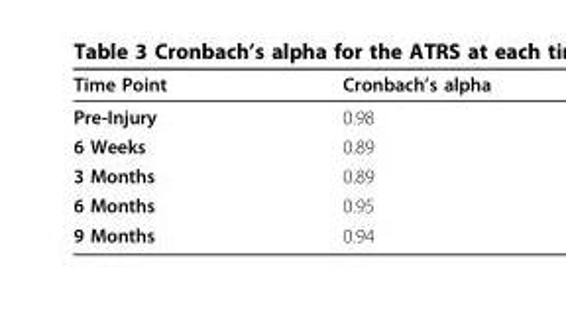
<table><thead><tr><td>Time Point</td><td>Cronbach’s alpha</td></tr></thead><tbody><tr><td>Pre-Injury</td><td>0.98</td></tr><tr><td>6 Weeks</td><td>0.89</td></tr><tr><td>3 Months</td><td>0.89</td></tr><tr><td>6 Months</td><td>0.95</td></tr><tr><td>9 Months</td><td>0.94</td></tr></tbody></table>